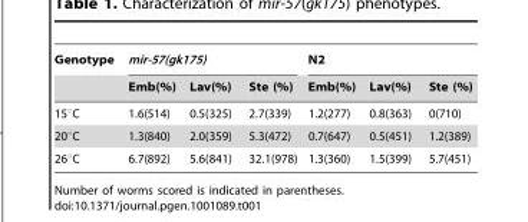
<table><thead><tr><td rowspan="2">Genotype</td><td colspan="3">mir-57(gk175)</td><td colspan="3">N2</td></tr><tr><td>Emb(%)</td><td>Lav(%)</td><td>Ste (%)</td><td>Emb(%)</td><td>Lav(%)</td><td>Ste (%)</td></tr></thead><tbody><tr><td>15°C</td><td>1.6(514)</td><td>0.5(325)</td><td>2.7(339)</td><td>1.2(277)</td><td>0.8(363)</td><td>0(710)</td></tr><tr><td>20°C</td><td>1.3(840)</td><td>2.0(359)</td><td>5.3(472)</td><td>0.7(647)</td><td>0.5(451)</td><td>1.2(389)</td></tr><tr><td>26°C</td><td>6.7(892)</td><td>5.6(841)</td><td>32.1(978)</td><td>1.3(360)</td><td>1.5(399)</td><td>5.7(451)</td></tr></tbody></table>